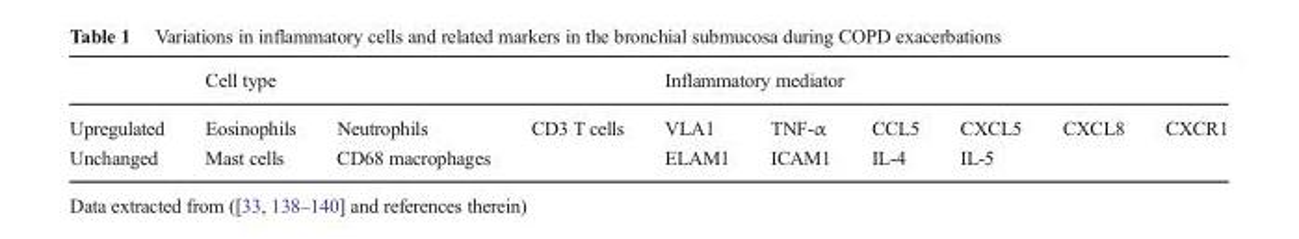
<table><thead><tr><td rowspan="2">Upregulated</td><td colspan="3">Cell type</td><td colspan="6">Inflammatory mediator</td></tr><tr><td>Eosinophils</td><td>Neutrophils</td><td>CD3 T cells</td><td>VLA1</td><td>TNF-α</td><td>CCL5</td><td>CXCL5</td><td>CXCL8</td><td>CXCR1</td></tr></thead><tbody><tr><td>Unchanged</td><td>Mast cells</td><td>CD68 macrophages</td><td></td><td>ELAM1</td><td>ICAM1</td><td>IL-4</td><td>IL-5</td><td></td><td></td></tr></tbody></table>